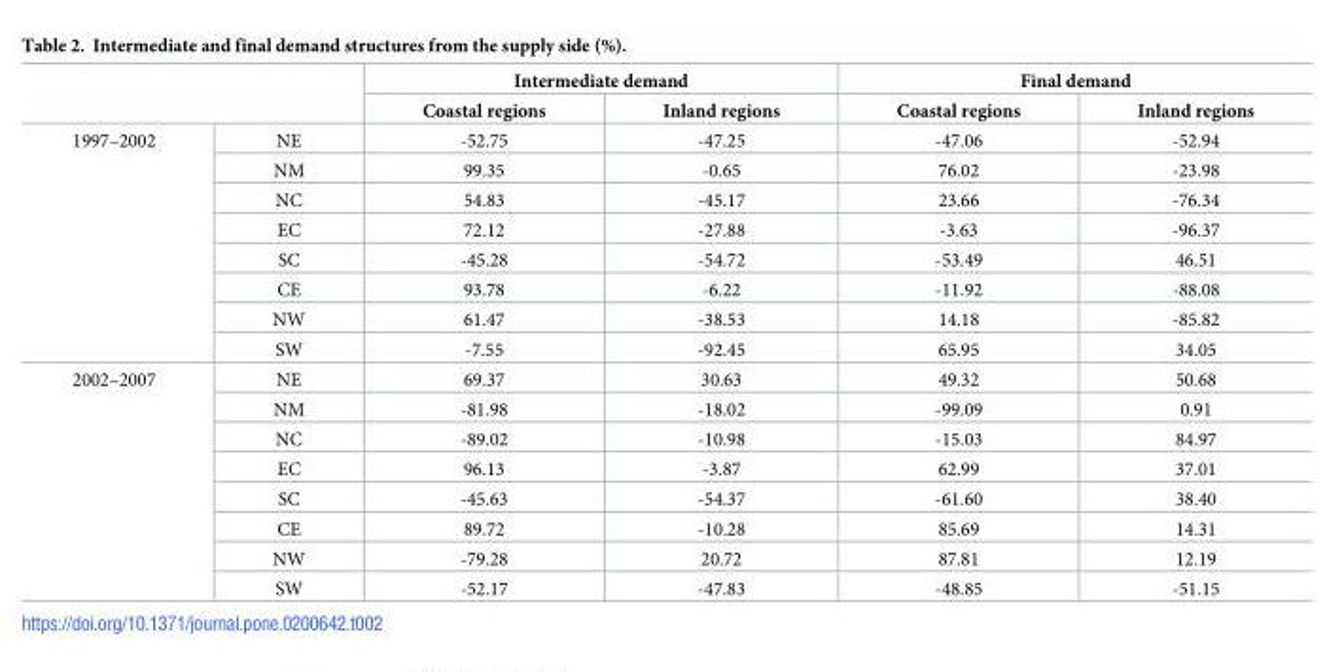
<table><thead><tr><td rowspan="2"></td><td rowspan="2"></td><td colspan="2">Intermediate demand</td><td colspan="2">Final demand</td></tr><tr><td>Coastal regions</td><td>Inland regions</td><td>Coastal regions</td><td>Inland regions</td></tr></thead><tbody><tr><td rowspan="8">1997–2002</td><td>NE</td><td>-52.75</td><td>-47.25</td><td>-47.06</td><td>-52.94</td></tr><tr><td>NM</td><td>99.35</td><td>-0.65</td><td>76.02</td><td>-23.98</td></tr><tr><td>NC</td><td>54.83</td><td>-45.17</td><td>23.66</td><td>-76.34</td></tr><tr><td>EC</td><td>72.12</td><td>-27.88</td><td>-3.63</td><td>-96.37</td></tr><tr><td>SC</td><td>-45.28</td><td>-54.72</td><td>-53.49</td><td>46.51</td></tr><tr><td>CE</td><td>93.78</td><td>-6.22</td><td>-11.92</td><td>-88.08</td></tr><tr><td>NW</td><td>61.47</td><td>-38.53</td><td>14.18</td><td>-85.82</td></tr><tr><td>SW</td><td>-7.55</td><td>-92.45</td><td>65.95</td><td>34.05</td></tr><tr><td rowspan="8">2002–2007</td><td>NE</td><td>69.37</td><td>30.63</td><td>49.32</td><td>50.68</td></tr><tr><td>NM</td><td>-81.98</td><td>-18.02</td><td>-99.09</td><td>0.91</td></tr><tr><td>NC</td><td>-89.02</td><td>-10.98</td><td>-15.03</td><td>84.97</td></tr><tr><td>EC</td><td>96.13</td><td>-3.87</td><td>62.99</td><td>37.01</td></tr><tr><td>SC</td><td>-45.63</td><td>-54.37</td><td>-61.60</td><td>38.40</td></tr><tr><td>CE</td><td>89.72</td><td>-10.28</td><td>85.69</td><td>14.31</td></tr><tr><td>NW</td><td>-79.28</td><td>20.72</td><td>87.81</td><td>12.19</td></tr><tr><td>SW</td><td>-52.17</td><td>-47.83</td><td>-48.85</td><td>-51.15</td></tr></tbody></table>